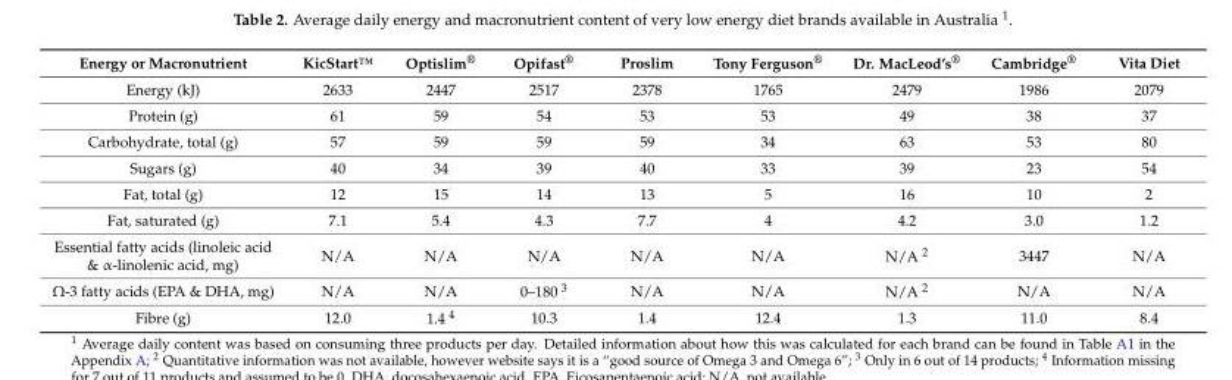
<table><thead><tr><td>Energy or Macronutrient</td><td>KicStart™</td><td>Optislim<sup>®</sup></td><td>Opifast<sup>®</sup></td><td>Proslim</td><td>Tony Ferguson<sup>®</sup></td><td>Dr. MacLeod’s<sup>®</sup></td><td>Cambridge<sup>®</sup></td><td>Vita Diet</td></tr></thead><tbody><tr><td>Energy (kJ)</td><td>2633</td><td>2447</td><td>2517</td><td>2378</td><td>1765</td><td>2479</td><td>1986</td><td>2079</td></tr><tr><td>Protein (g)</td><td>61</td><td>59</td><td>54</td><td>53</td><td>53</td><td>49</td><td>38</td><td>37</td></tr><tr><td>Carbohydrate, total (g)</td><td>57</td><td>59</td><td>59</td><td>59</td><td>34</td><td>63</td><td>53</td><td>80</td></tr><tr><td>Sugars (g)</td><td>40</td><td>34</td><td>39</td><td>40</td><td>33</td><td>39</td><td>23</td><td>54</td></tr><tr><td>Fat, total (g)</td><td>12</td><td>15</td><td>14</td><td>13</td><td>5</td><td>16</td><td>10</td><td>2</td></tr><tr><td>Fat, saturated (g)</td><td>7.1</td><td>5.4</td><td>4.3</td><td>7.7</td><td>4</td><td>4.2</td><td>3.0</td><td>1.2</td></tr><tr><td>Essential fatty acids (linoleic acid &amp; α-linolenic acid, mg)</td><td>N/A</td><td>N/A</td><td>N/A</td><td>N/A</td><td>N/A</td><td>N/A <sup>2</sup></td><td>3447</td><td>N/A</td></tr><tr><td>Ω-3 fatty acids (EPA &amp; DHA, mg)</td><td>N/A</td><td>N/A</td><td>0–180 <sup>3</sup></td><td>N/A</td><td>N/A</td><td>N/A <sup>2</sup></td><td>N/A</td><td>N/A</td></tr><tr><td>Fibre (g)</td><td>12.0</td><td>1.4 <sup>4</sup></td><td>10.3</td><td>1.4</td><td>12.4</td><td>1.3</td><td>11.0</td><td>8.4</td></tr></tbody></table>